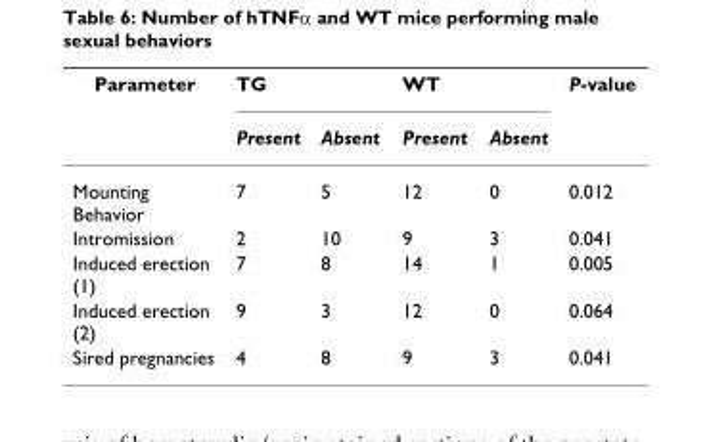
<table><thead><tr><td rowspan="2">Parameter</td><td colspan="2">TG</td><td colspan="2">WT</td><td rowspan="2">P-value</td></tr><tr><td>Present</td><td>Absent</td><td>Present</td><td>Absent</td></tr></thead><tbody><tr><td>Mounting Behavior</td><td>7</td><td>5</td><td>12</td><td>0</td><td>0.012</td></tr><tr><td>Intromission</td><td>2</td><td>10</td><td>9</td><td>3</td><td>0.041</td></tr><tr><td>Induced erection (1)</td><td>7</td><td>8</td><td>14</td><td>1</td><td>0.005</td></tr><tr><td>Induced erection (2)</td><td>9</td><td>3</td><td>12</td><td>0</td><td>0.064</td></tr><tr><td>Sired pregnancies</td><td>4</td><td>8</td><td>9</td><td>3</td><td>0.041</td></tr></tbody></table>